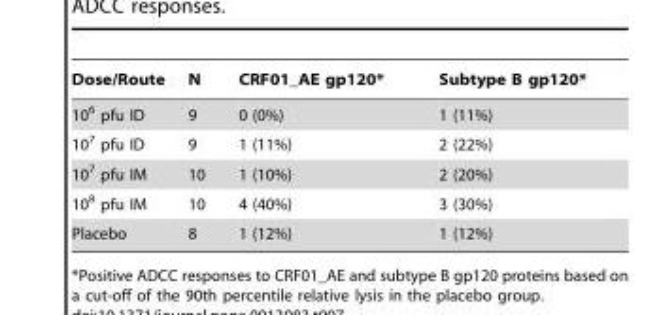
<table><thead><tr><td>Dose/Route</td><td>N</td><td>CRF01_AE gp120*</td><td>Subtype B gp120*</td></tr></thead><tbody><tr><td>10<sup>6</sup> pfu ID</td><td>9</td><td>0 (0%)</td><td>1 (11%)</td></tr><tr><td>10<sup>7</sup> pfu ID</td><td>9</td><td>1 (11%)</td><td>2 (22%)</td></tr><tr><td>10<sup>7</sup> pfu IM</td><td>10</td><td>1 (10%)</td><td>2 (20%)</td></tr><tr><td>10<sup>8</sup> pfu IM</td><td>10</td><td>4 (40%)</td><td>3 (30%)</td></tr><tr><td>Placebo</td><td>8</td><td>1 (12%)</td><td>1 (12%)</td></tr></tbody></table>